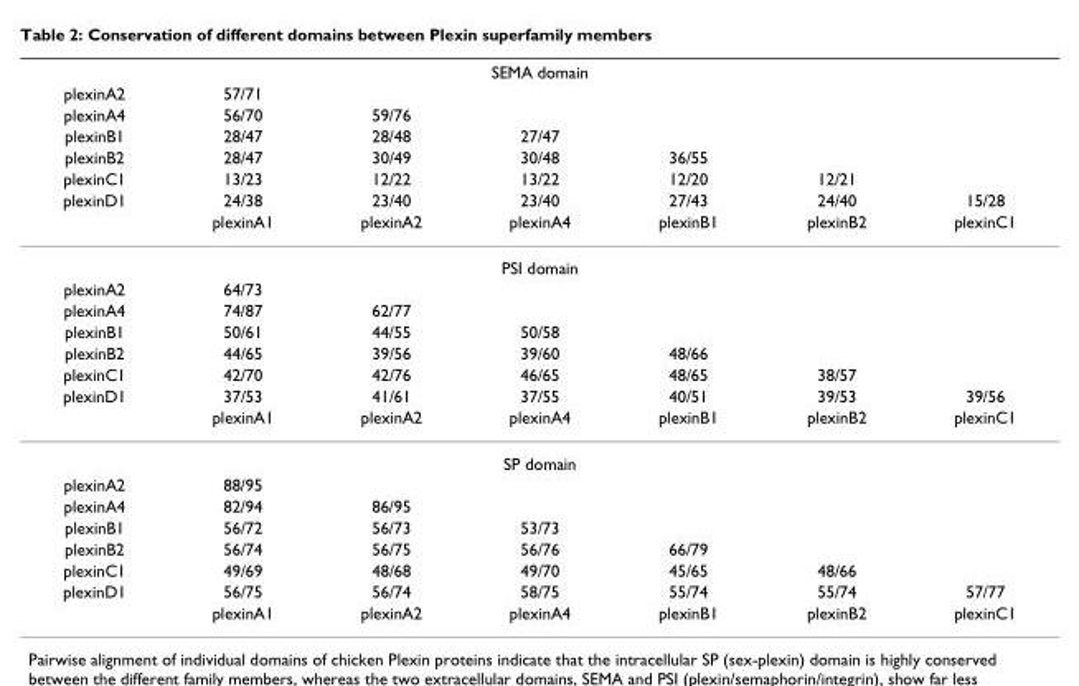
<table><thead><tr><td colspan="7">SEMA domain</td></tr><tr><td rowspan="7">plexinA2 plexinA4 plexinB1 plexinB2 plexinC1 plexinD1</td><td rowspan="7">57/71 56/70 28/47 28/47 13/23 24/38 plexinA1</td><td rowspan="7">59/76 28/48 30/49 12/22 23/40 plexinA2</td><td rowspan="7">27/47 30/48 13/22 23/40 plexinA4</td><td rowspan="7">36/55 12/20 27/43 plexinB1</td><td rowspan="7">12/21 24/40 plexinB2</td><td rowspan="7">15/28 plexinC1</td></tr><tr></tr><tr></tr><tr></tr><tr></tr><tr></tr><tr></tr></thead><tbody><tr><td colspan="7">PSI domain</td></tr><tr><td>plexinA2</td><td>64/73</td><td></td><td></td><td></td><td></td><td></td></tr><tr><td>plexinA4</td><td>74/87</td><td>62/77</td><td></td><td></td><td></td><td></td></tr><tr><td>plexinB1</td><td>50/61</td><td>44/55</td><td>50/58</td><td></td><td></td><td></td></tr><tr><td>plexinB2</td><td>44/65</td><td>39/56</td><td>39/60</td><td>48/66</td><td></td><td></td></tr><tr><td>plexinC1</td><td>42/70</td><td>42/76</td><td>46/65</td><td>48/65</td><td>38/57</td><td></td></tr><tr><td rowspan="2">plexinD1</td><td>37/53</td><td>41/61</td><td>37/55</td><td>40/51</td><td>39/53</td><td>39/56</td></tr><tr><td>plexinA1</td><td>plexinA2</td><td>plexinA4</td><td>plexinB1</td><td>plexinB2</td><td>plexinC1</td></tr><tr><td colspan="7">SP domain</td></tr><tr><td>plexinA2</td><td>88/95</td><td></td><td></td><td></td><td></td><td></td></tr><tr><td>plexinA4</td><td>82/94</td><td>86/95</td><td></td><td></td><td></td><td></td></tr><tr><td>plexinB1</td><td>56/72</td><td>56/73</td><td>53/73</td><td></td><td></td><td></td></tr><tr><td>plexinB2</td><td>56/74</td><td>56/75</td><td>56/76</td><td>66/79</td><td></td><td></td></tr><tr><td>plexinC1</td><td>49/69</td><td>48/68</td><td>49/70</td><td>45/65</td><td>48/66</td><td></td></tr><tr><td rowspan="2">plexinD1</td><td>56/75</td><td>56/74</td><td>58/75</td><td>55/74</td><td>55/74</td><td>57/77</td></tr><tr><td>plexinA1</td><td>plexinA2</td><td>plexinA4</td><td>plexinB1</td><td>plexinB2</td><td>plexinC1</td></tr></tbody></table>